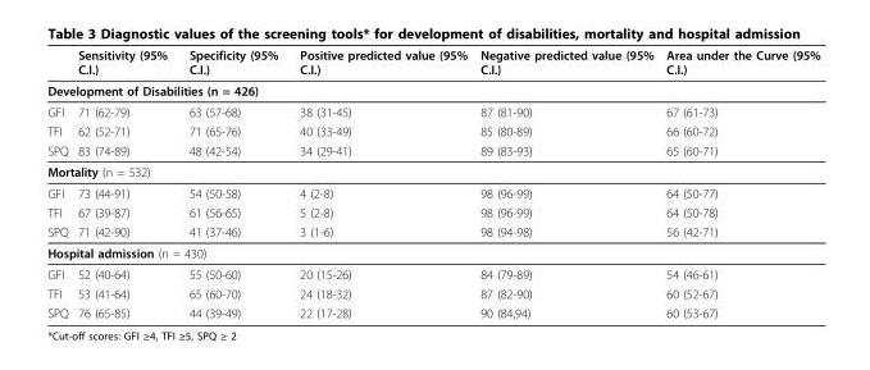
<table><thead><tr><td></td><td>Sensitivity (95% C.I.)</td><td>Specificity (95% C.I.)</td><td>Positive predicted value (95% C.I.)</td><td>Negative predicted value (95% C.I.)</td><td>Area under the Curve (95% C.I.)</td></tr></thead><tbody><tr><td colspan="6">Development of Disabilities (n = 426)</td></tr><tr><td>GFI</td><td>71 (62-79)</td><td>63 (57-68)</td><td>38 (31-45)</td><td>87 (81-90)</td><td>67 (61-73)</td></tr><tr><td>TFI</td><td>62 (52-71)</td><td>71 (65-76)</td><td>40 (33-49)</td><td>85 (80-89)</td><td>66 (60-72)</td></tr><tr><td>SPQ</td><td>83 (74-89)</td><td>48 (42-54)</td><td>34 (29-41)</td><td>89 (83-93)</td><td>65 (60-71)</td></tr><tr><td colspan="6">Mortality (n = 532)</td></tr><tr><td>GFI</td><td>73 (44-91)</td><td>54 (50-58)</td><td>4 (2-8)</td><td>98 (96-99)</td><td>64 (50-77)</td></tr><tr><td>TFI</td><td>67 (39-87)</td><td>61 (56-65)</td><td>5 (2-8)</td><td>98 (96-99)</td><td>64 (50-78)</td></tr><tr><td>SPQ</td><td>71 (42-90)</td><td>41 (37-46)</td><td>3 (1-6)</td><td>98 (94-98)</td><td>56 (42-71)</td></tr><tr><td colspan="6">Hospital admission (n = 430)</td></tr><tr><td>GFI</td><td>52 (40-64)</td><td>55 (50-60)</td><td>20 (15-26)</td><td>84 (79-89)</td><td>54 (46-61)</td></tr><tr><td>TFI</td><td>53 (41-64)</td><td>65 (60-70)</td><td>24 (18-32)</td><td>87 (82-90)</td><td>60 (52-67)</td></tr><tr><td>SPQ</td><td>76 (65-85)</td><td>44 (39-49)</td><td>22 (17-28)</td><td>90 (84,94)</td><td>60 (53-67)</td></tr></tbody></table>